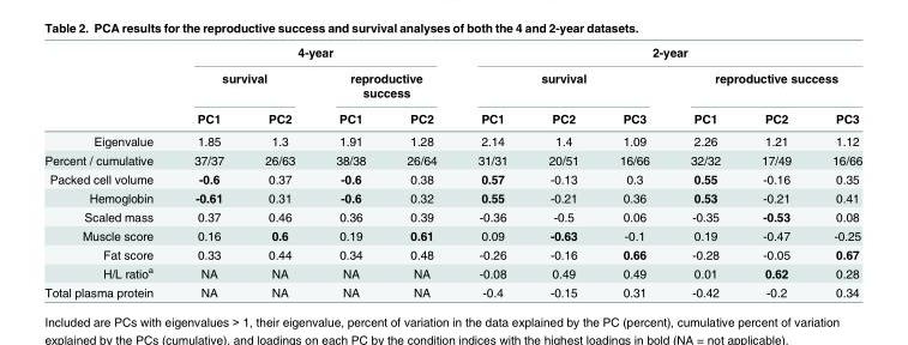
<table><thead><tr><td rowspan="3"></td><td colspan="4">4-year</td><td colspan="6">2-year</td></tr><tr><td colspan="2">survival</td><td colspan="2">reproductive success</td><td colspan="3">survival</td><td colspan="3">reproductive success</td></tr><tr><td>PC1</td><td>PC2</td><td>PC1</td><td>PC2</td><td>PC1</td><td>PC2</td><td>PC3</td><td>PC1</td><td>PC2</td><td>PC3</td></tr></thead><tbody><tr><td>Eigenvalue</td><td>1.85</td><td>1.3</td><td>1.91</td><td>1.28</td><td>2.14</td><td>1.4</td><td>1.09</td><td>2.26</td><td>1.21</td><td>1.12</td></tr><tr><td>Percent / cumulative</td><td>37/37</td><td>26/63</td><td>38/38</td><td>26/64</td><td>31/31</td><td>20/51</td><td>16/66</td><td>32/32</td><td>17/49</td><td>16/66</td></tr><tr><td>Packed cell volume</td><td>-0.6</td><td>0.37</td><td>-0.6</td><td>0.38</td><td>0.57</td><td>-0.13</td><td>0.3</td><td>0.55</td><td>-0.16</td><td>0.35</td></tr><tr><td>Hemoglobin</td><td>-0.61</td><td>0.31</td><td>-0.6</td><td>0.32</td><td>0.55</td><td>-0.21</td><td>0.36</td><td>0.53</td><td>-0.21</td><td>0.41</td></tr><tr><td>Scaled mass</td><td>0.37</td><td>0.46</td><td>0.36</td><td>0.39</td><td>-0.36</td><td>-0.5</td><td>0.06</td><td>-0.35</td><td>-0.53</td><td>0.08</td></tr><tr><td>Muscle score</td><td>0.16</td><td>0.6</td><td>0.19</td><td>0.61</td><td>0.09</td><td>-0.63</td><td>-0.1</td><td>0.19</td><td>-0.47</td><td>-0.25</td></tr><tr><td>Fat score</td><td>0.33</td><td>0.44</td><td>0.34</td><td>0.48</td><td>-0.26</td><td>-0.16</td><td>0.66</td><td>-0.28</td><td>-0.05</td><td>0.67</td></tr><tr><td>H/L ratio<sup>a</sup></td><td>NA</td><td>NA</td><td>NA</td><td>NA</td><td>-0.08</td><td>0.49</td><td>0.49</td><td>0.01</td><td>0.62</td><td>0.28</td></tr><tr><td>Total plasma protein</td><td>NA</td><td>NA</td><td>NA</td><td>NA</td><td>-0.4</td><td>-0.15</td><td>0.31</td><td>-0.42</td><td>-0.2</td><td>0.34</td></tr></tbody></table>